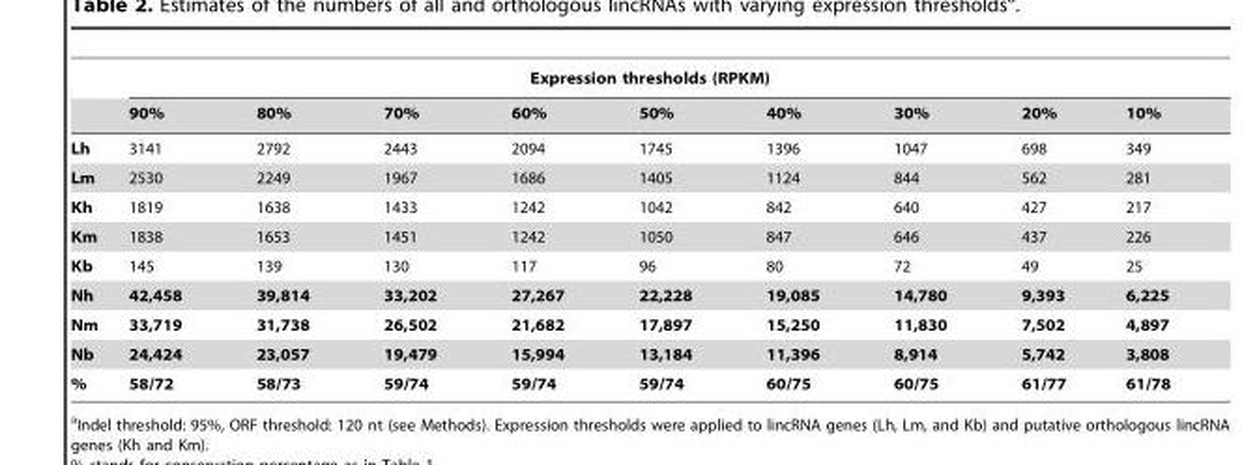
<table><thead><tr><td rowspan="2"></td><td colspan="9">Expression thresholds (RPKM)</td></tr><tr><td>90%</td><td>80%</td><td>70%</td><td>60%</td><td>50%</td><td>40%</td><td>30%</td><td>20%</td><td>10%</td></tr></thead><tbody><tr><td>Lh</td><td>3141</td><td>2792</td><td>2443</td><td>2094</td><td>1745</td><td>1396</td><td>1047</td><td>698</td><td>349</td></tr><tr><td>Lm</td><td>2530</td><td>2249</td><td>1967</td><td>1686</td><td>1405</td><td>1124</td><td>844</td><td>562</td><td>281</td></tr><tr><td>Kh</td><td>1819</td><td>1638</td><td>1433</td><td>1242</td><td>1042</td><td>842</td><td>640</td><td>427</td><td>217</td></tr><tr><td>Km</td><td>1838</td><td>1653</td><td>1451</td><td>1242</td><td>1050</td><td>847</td><td>646</td><td>437</td><td>226</td></tr><tr><td>Kb</td><td>145</td><td>139</td><td>130</td><td>117</td><td>96</td><td>80</td><td>72</td><td>49</td><td>25</td></tr><tr><td>Nh</td><td>42,458</td><td>39,814</td><td>33,202</td><td>27,267</td><td>22,228</td><td>19,085</td><td>14,780</td><td>9,393</td><td>6,225</td></tr><tr><td>Nm</td><td>33,719</td><td>31,738</td><td>26,502</td><td>21,682</td><td>17,897</td><td>15,250</td><td>11,830</td><td>7,502</td><td>4,897</td></tr><tr><td>Nb</td><td>24,424</td><td>23,057</td><td>19,479</td><td>15,994</td><td>13,184</td><td>11,396</td><td>8,914</td><td>5,742</td><td>3,808</td></tr><tr><td>%</td><td>58/72</td><td>58/73</td><td>59/74</td><td>59/74</td><td>59/74</td><td>60/75</td><td>60/75</td><td>61/77</td><td>61/78</td></tr></tbody></table>